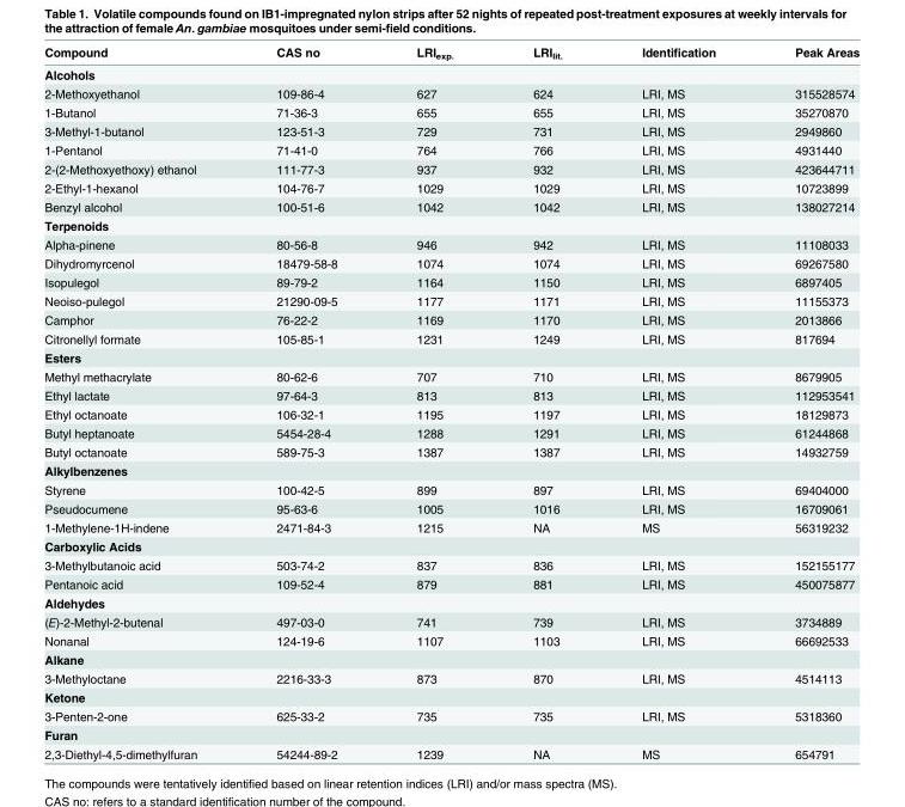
<table><thead><tr><td>Compound</td><td>CAS no</td><td>LRI<sub>exp.</sub></td><td>LRI<sub>lit.</sub></td><td>Identification</td><td>Peak Areas</td></tr></thead><tbody><tr><td colspan="6">Alcohols</td></tr><tr><td>2-Methoxyethanol</td><td>109-86-4</td><td>627</td><td>624</td><td>LRI, MS</td><td>315528574</td></tr><tr><td>1-Butanol</td><td>71-36-3</td><td>655</td><td>655</td><td>LRI, MS</td><td>35270870</td></tr><tr><td>3-Methyl-1-butanol</td><td>123-51-3</td><td>729</td><td>731</td><td>LRI, MS</td><td>2949860</td></tr><tr><td>1-Pentanol</td><td>71-41-0</td><td>764</td><td>766</td><td>LRI, MS</td><td>4931440</td></tr><tr><td>2-(2-Methoxyethoxy) ethanol</td><td>111-77-3</td><td>937</td><td>932</td><td>LRI, MS</td><td>423644711</td></tr><tr><td>2-Ethyl-1-hexanol</td><td>104-76-7</td><td>1029</td><td>1029</td><td>LRI, MS</td><td>10723899</td></tr><tr><td>Benzyl alcohol</td><td>100-51-6</td><td>1042</td><td>1042</td><td>LRI, MS</td><td>138027214</td></tr><tr><td colspan="6">Terpenoids</td></tr><tr><td>Alpha-pinene</td><td>80-56-8</td><td>946</td><td>942</td><td>LRI, MS</td><td>11108033</td></tr><tr><td>Dihydromyrcenol</td><td>18479-58-8</td><td>1074</td><td>1074</td><td>LRI, MS</td><td>69267580</td></tr><tr><td>Isopulegol</td><td>89-79-2</td><td>1164</td><td>1150</td><td>LRI, MS</td><td>6897405</td></tr><tr><td>Neoiso-pulegol</td><td>21290-09-5</td><td>1177</td><td>1171</td><td>LRI, MS</td><td>11155373</td></tr><tr><td>Camphor</td><td>76-22-2</td><td>1169</td><td>1170</td><td>LRI, MS</td><td>2013866</td></tr><tr><td>Citronellyl formate</td><td>105-85-1</td><td>1231</td><td>1249</td><td>LRI, MS</td><td>817694</td></tr><tr><td colspan="6">Esters</td></tr><tr><td>Methyl methacrylate</td><td>80-62-6</td><td>707</td><td>710</td><td>LRI, MS</td><td>8679905</td></tr><tr><td>Ethyl lactate</td><td>97-64-3</td><td>813</td><td>813</td><td>LRI, MS</td><td>112953541</td></tr><tr><td>Ethyl octanoate</td><td>106-32-1</td><td>1195</td><td>1197</td><td>LRI, MS</td><td>18129873</td></tr><tr><td>Butyl heptanoate</td><td>5454-28-4</td><td>1288</td><td>1291</td><td>LRI, MS</td><td>61244868</td></tr><tr><td>Butyl octanoate</td><td>589-75-3</td><td>1387</td><td>1387</td><td>LRI, MS</td><td>14932759</td></tr><tr><td colspan="6">Alkylbenzenes</td></tr><tr><td>Styrene</td><td>100-42-5</td><td>899</td><td>897</td><td>LRI, MS</td><td>69404000</td></tr><tr><td>Pseudocumene</td><td>95-63-6</td><td>1005</td><td>1016</td><td>LRI, MS</td><td>16709061</td></tr><tr><td>1-Methylene-1H-indene</td><td>2471-84-3</td><td>1215</td><td>NA</td><td>MS</td><td>56319232</td></tr><tr><td colspan="6">Carboxylic Acids</td></tr><tr><td>3-Methylbutanoic acid</td><td>503-74-2</td><td>837</td><td>836</td><td>LRI, MS</td><td>152155177</td></tr><tr><td>Pentanoic acid</td><td>109-52-4</td><td>879</td><td>881</td><td>LRI, MS</td><td>450075877</td></tr><tr><td colspan="6">Aldehydes</td></tr><tr><td>(E)-2-Methyl-2-butenal</td><td>497-03-0</td><td>741</td><td>739</td><td>LRI, MS</td><td>3734889</td></tr><tr><td>Nonanal</td><td>124-19-6</td><td>1107</td><td>1103</td><td>LRI, MS</td><td>66692533</td></tr><tr><td colspan="6">Alkane</td></tr><tr><td>3-Methyloctane</td><td>2216-33-3</td><td>873</td><td>870</td><td>LRI, MS</td><td>4514113</td></tr><tr><td colspan="6">Ketone</td></tr><tr><td>3-Penten-2-one</td><td>625-33-2</td><td>735</td><td>735</td><td>LRI, MS</td><td>5318360</td></tr><tr><td colspan="6">Furan</td></tr><tr><td>2,3-Diethyl-4,5-dimethylfuran</td><td>54244-89-2</td><td>1239</td><td>NA</td><td>MS</td><td>654791</td></tr></tbody></table>